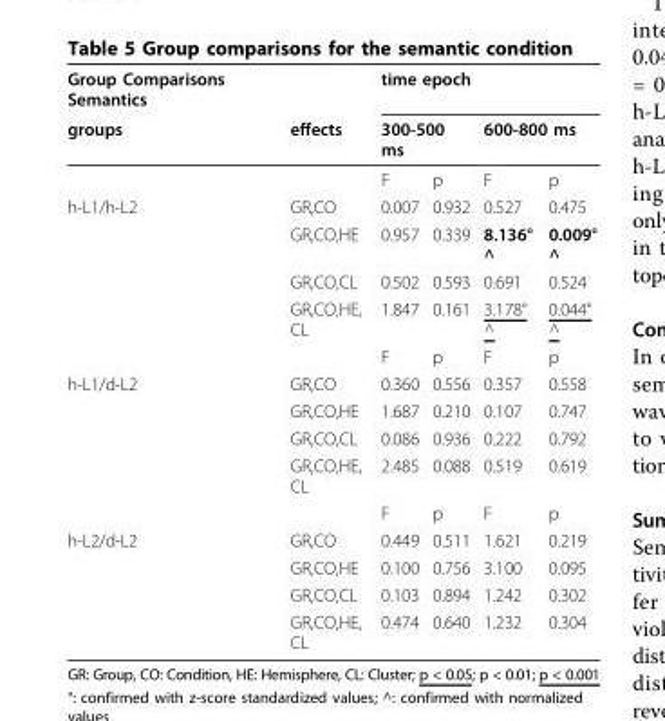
<table><thead><tr><td rowspan="2">Group Comparisons Semantics groups</td><td rowspan="2">effects</td><td colspan="4">time epoch</td></tr><tr><td colspan="2">300-500 ms</td><td colspan="2">600-800 ms</td></tr><tr><td colspan="2"></td><td>F</td><td>p</td><td>F</td><td>p</td></tr></thead><tbody><tr><td rowspan="4">h-L1/h-L2</td><td>GR,CO</td><td>0.007</td><td>0.932</td><td>0.527</td><td>0.475</td></tr><tr><td>GR,CO,HE</td><td>0.957</td><td>0.339</td><td>8.136° ^</td><td>0.009° ^</td></tr><tr><td>GR,CO,CL</td><td>0.502</td><td>0.593</td><td>0.691</td><td>0.524</td></tr><tr><td>GR,CO,HE, CL</td><td>1.847</td><td>0.161</td><td>3.178° ^</td><td>0.044° ^</td></tr><tr><td colspan="2"></td><td>F</td><td>p</td><td>F</td><td>p</td></tr><tr><td rowspan="4">h-L1/d-L2</td><td>GR,CO</td><td>0.360</td><td>0.556</td><td>0.357</td><td>0.558</td></tr><tr><td>GR,CO,HE</td><td>1.687</td><td>0.210</td><td>0.107</td><td>0.747</td></tr><tr><td>GR,CO,CL</td><td>0.086</td><td>0.936</td><td>0.222</td><td>0.792</td></tr><tr><td>GR,CO,HE, CL</td><td>2.485</td><td>0.088</td><td>0.519</td><td>0.619</td></tr><tr><td colspan="2"></td><td>F</td><td>p</td><td>F</td><td>p</td></tr><tr><td rowspan="4">h-L2/d-L2</td><td>GR,CO</td><td>0.449</td><td>0.511</td><td>1.621</td><td>0.219</td></tr><tr><td>GR,CO,HE</td><td>0.100</td><td>0.756</td><td>3.100</td><td>0.095</td></tr><tr><td>GR,CO,CL</td><td>0.103</td><td>0.894</td><td>1.242</td><td>0.302</td></tr><tr><td>GR,CO,HE, CL</td><td>0.474</td><td>0.640</td><td>1.232</td><td>0.304</td></tr></tbody></table>